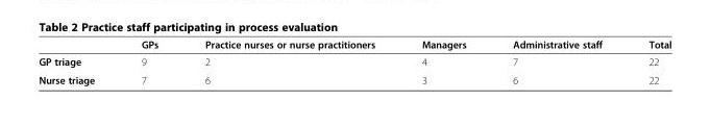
<table><thead><tr><td></td><td>GPs</td><td>Practice nurses or nurse practitioners</td><td>Managers</td><td>Administrative staff</td><td>Total</td></tr></thead><tbody><tr><td>GP triage</td><td>9</td><td>2</td><td>4</td><td>7</td><td>22</td></tr><tr><td>Nurse triage</td><td>7</td><td>6</td><td>3</td><td>6</td><td>22</td></tr></tbody></table>